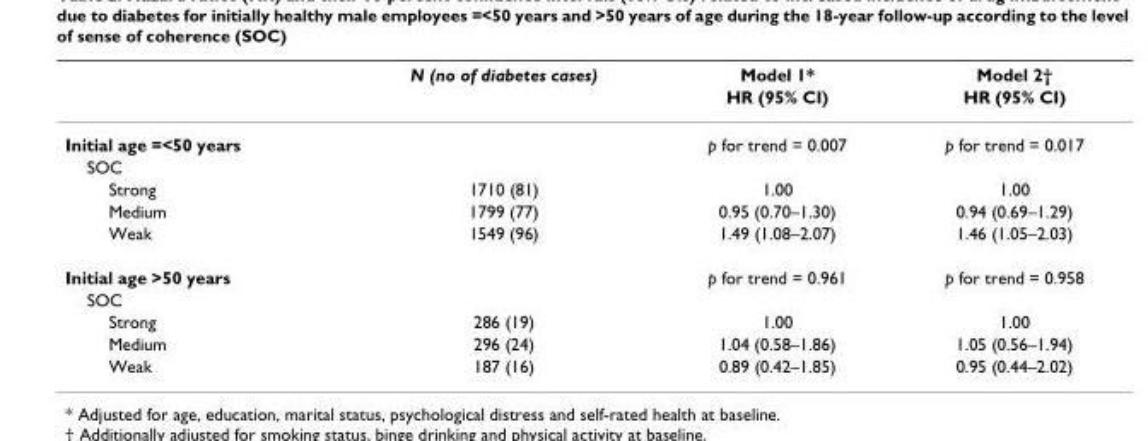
<table><thead><tr><td rowspan="2"></td><td rowspan="2">N (no of diabetes cases)</td><td rowspan="2">Model 1* HR (95% CI)</td><td rowspan="2">Model 2† HR (95% CI)</td></tr><tr></tr></thead><tbody><tr><td>Initial age =&lt;50 years</td><td></td><td>p for trend = 0.007</td><td>p for trend = 0.017</td></tr><tr><td colspan="4">SOC</td></tr><tr><td>Strong</td><td>1710 (81)</td><td>1.00</td><td>1.00</td></tr><tr><td>Medium</td><td>1799 (77)</td><td>0.95 (0.70–1.30)</td><td>0.94 (0.69–1.29)</td></tr><tr><td>Weak</td><td>1549 (96)</td><td>1.49 (1.08–2.07)</td><td>1.46 (1.05–2.03)</td></tr><tr><td>Initial age &gt;50 years</td><td></td><td>p for trend = 0.961</td><td>p for trend = 0.958</td></tr><tr><td colspan="4">SOC</td></tr><tr><td>Strong</td><td>286 (19)</td><td>1.00</td><td>1.00</td></tr><tr><td>Medium</td><td>296 (24)</td><td>1.04 (0.58–1.86)</td><td>1.05 (0.56–1.94)</td></tr><tr><td>Weak</td><td>187 (16)</td><td>0.89 (0.42–1.85)</td><td>0.95 (0.44–2.02)</td></tr></tbody></table>